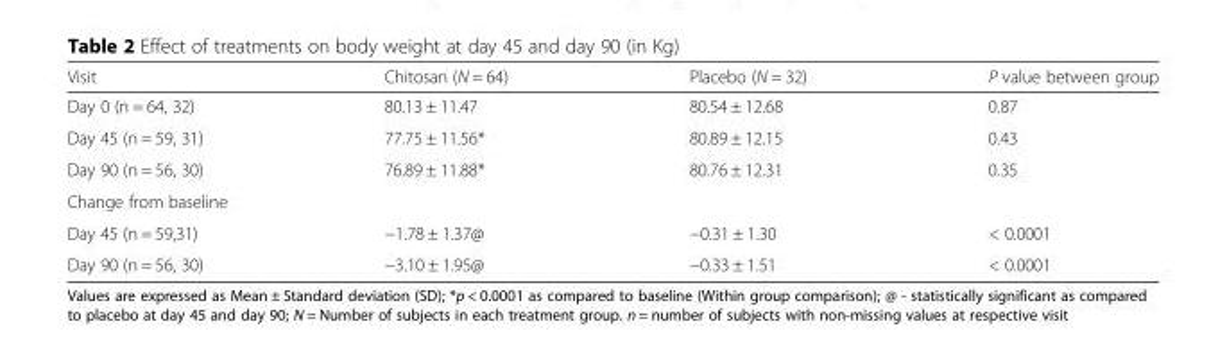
<table><thead><tr><td>Visit</td><td>Chitosan (N = 64)</td><td>Placebo (N = 32)</td><td>P value between group</td></tr></thead><tbody><tr><td>Day 0 (n = 64, 32)</td><td>80.13 ± 11.47</td><td>80.54 ± 12.68</td><td>0.87</td></tr><tr><td>Day 45 (n = 59, 31)</td><td>77.75 ± 11.56*</td><td>80.89 ± 12.15</td><td>0.43</td></tr><tr><td>Day 90 (n = 56, 30)</td><td>76.89 ± 11.88*</td><td>80.76 ± 12.31</td><td>0.35</td></tr><tr><td colspan="4">Change from baseline</td></tr><tr><td>Day 45 (n = 59,31)</td><td>−1.78 ± 1.37@</td><td>−0.31 ± 1.30</td><td>&lt; 0.0001</td></tr><tr><td>Day 90 (n = 56, 30)</td><td>−3.10 ± 1.95@</td><td>−0.33 ± 1.51</td><td>&lt; 0.0001</td></tr></tbody></table>